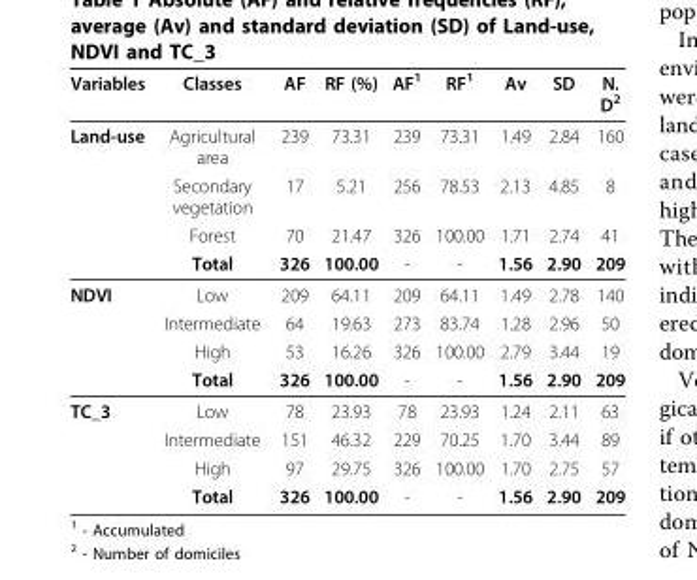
<table><thead><tr><td>Variables</td><td>Classes</td><td>AF</td><td>RF (%)</td><td>AF<sup>1</sup></td><td>RF<sup>1</sup></td><td>Av</td><td>SD</td><td>N. D<sup>2</sup></td></tr></thead><tbody><tr><td rowspan="4">Land-use</td><td>Agricultural area</td><td>239</td><td>73.31</td><td>239</td><td>73.31</td><td>1.49</td><td>2.84</td><td>160</td></tr><tr><td>Secondary vegetation</td><td>17</td><td>5.21</td><td>256</td><td>78.53</td><td>2.13</td><td>4.85</td><td>8</td></tr><tr><td>Forest</td><td>70</td><td>21.47</td><td>326</td><td>100.00</td><td>1.71</td><td>2.74</td><td>41</td></tr><tr><td>Total</td><td>326</td><td>100.00</td><td>-</td><td>-</td><td>1.56</td><td>2.90</td><td>209</td></tr><tr><td rowspan="4">NDVI</td><td>Low</td><td>209</td><td>64.11</td><td>209</td><td>64.11</td><td>1.49</td><td>2.78</td><td>140</td></tr><tr><td>Intermediate</td><td>64</td><td>19.63</td><td>273</td><td>83.74</td><td>1.28</td><td>2.96</td><td>50</td></tr><tr><td>High</td><td>53</td><td>16.26</td><td>326</td><td>100.00</td><td>2.79</td><td>3.44</td><td>19</td></tr><tr><td>Total</td><td>326</td><td>100.00</td><td>-</td><td>-</td><td>1.56</td><td>2.90</td><td>209</td></tr><tr><td rowspan="4">TC_3</td><td>Low</td><td>78</td><td>23.93</td><td>78</td><td>23.93</td><td>1.24</td><td>2.11</td><td>63</td></tr><tr><td>Intermediate</td><td>151</td><td>46.32</td><td>229</td><td>70.25</td><td>1.70</td><td>3.44</td><td>89</td></tr><tr><td>High</td><td>97</td><td>29.75</td><td>326</td><td>100.00</td><td>1.70</td><td>2.75</td><td>57</td></tr><tr><td>Total</td><td>326</td><td>100.00</td><td>-</td><td>-</td><td>1.56</td><td>2.90</td><td>209</td></tr></tbody></table>